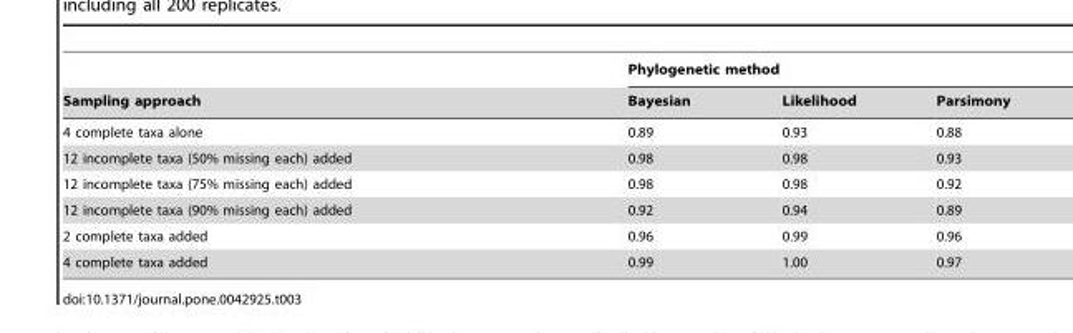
<table><thead><tr><td rowspan="2">Sampling approach</td><td colspan="3">Phylogenetic method</td></tr><tr><td>Bayesian</td><td>Likelihood</td><td>Parsimony</td></tr></thead><tbody><tr><td>4 complete taxa alone</td><td>0.89</td><td>0.93</td><td>0.88</td></tr><tr><td>12 incomplete taxa (50% missing each) added</td><td>0.98</td><td>0.98</td><td>0.93</td></tr><tr><td>12 incomplete taxa (75% missing each) added</td><td>0.98</td><td>0.98</td><td>0.92</td></tr><tr><td>12 incomplete taxa (90% missing each) added</td><td>0.92</td><td>0.94</td><td>0.89</td></tr><tr><td>2 complete taxa added</td><td>0.96</td><td>0.99</td><td>0.96</td></tr><tr><td>4 complete taxa added</td><td>0.99</td><td>1.00</td><td>0.97</td></tr></tbody></table>